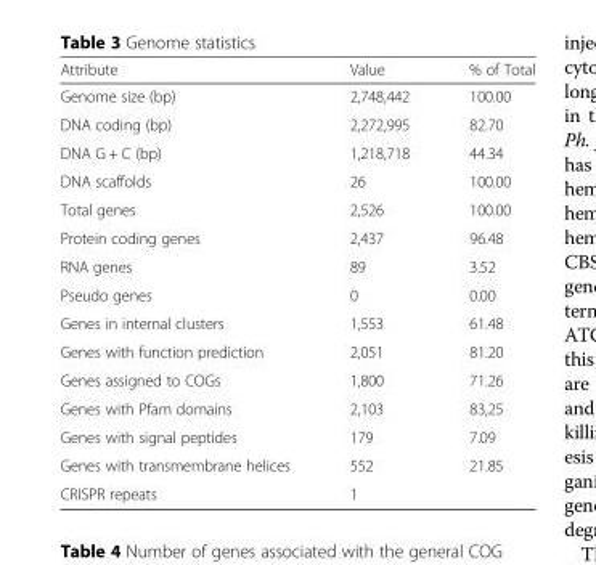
<table><thead><tr><td>Attribute</td><td>Value</td><td>% of Total</td></tr></thead><tbody><tr><td>Genome size (bp)</td><td>2,748,442</td><td>100.00</td></tr><tr><td>DNA coding (bp)</td><td>2,272,995</td><td>82.70</td></tr><tr><td>DNA G + C (bp)</td><td>1,218,718</td><td>44.34</td></tr><tr><td>DNA scaffolds</td><td>26</td><td>100.00</td></tr><tr><td>Total genes</td><td>2,526</td><td>100.00</td></tr><tr><td>Protein coding genes</td><td>2,437</td><td>96.48</td></tr><tr><td>RNA genes</td><td>89</td><td>3.52</td></tr><tr><td>Pseudo genes</td><td>0</td><td>0.00</td></tr><tr><td>Genes in internal clusters</td><td>1,553</td><td>61.48</td></tr><tr><td>Genes with function prediction</td><td>2,051</td><td>81.20</td></tr><tr><td>Genes assigned to COGs</td><td>1,800</td><td>71.26</td></tr><tr><td>Genes with Pfam domains</td><td>2,103</td><td>83,25</td></tr><tr><td>Genes with signal peptides</td><td>179</td><td>7.09</td></tr><tr><td>Genes with transmembrane helices</td><td>552</td><td>21.85</td></tr><tr><td>CRISPR repeats</td><td>1</td><td></td></tr></tbody></table>